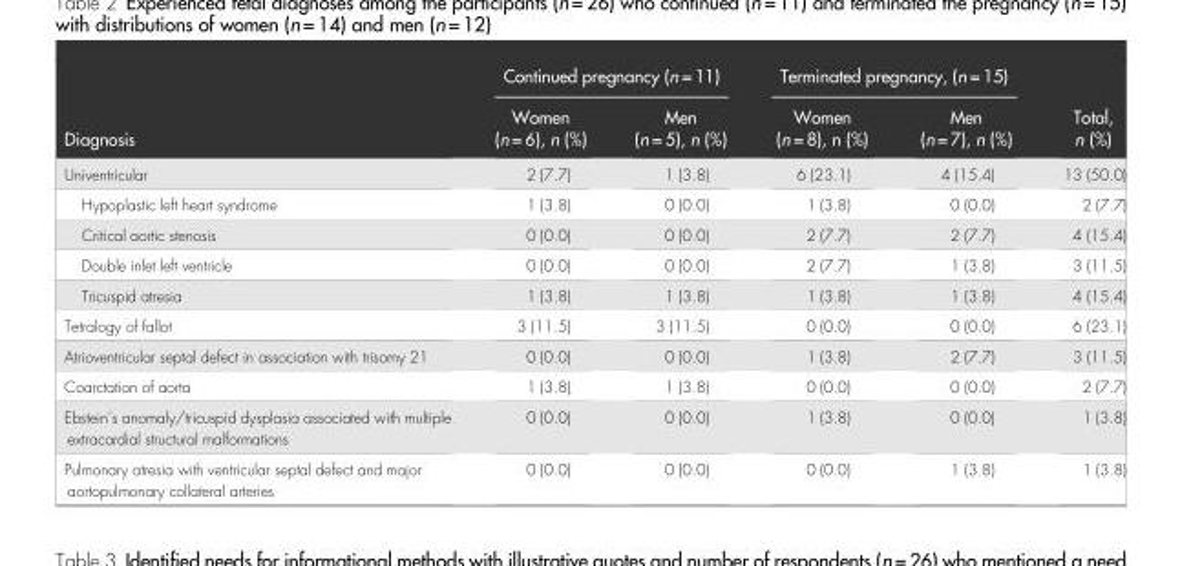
<table><thead><tr><td rowspan="2">Diagnosis</td><td colspan="2">Continued pregnancy (n = 11)</td><td colspan="2">Terminated pregnancy, (n = 15)</td><td rowspan="2">Total, n (%)</td></tr><tr><td>Women (n = 6), n (%)</td><td>Men (n = 5), n (%)</td><td>Women (n = 8), n (%)</td><td>Men (n = 7), n (%)</td></tr></thead><tbody><tr><td>Univentricular</td><td>2 (7.7)</td><td>1 (3.8)</td><td>6 (23.1)</td><td>4 (15.4)</td><td>13 (50.0)</td></tr><tr><td>Hypoplastic left heart syndrome</td><td>1 (3.8)</td><td>0 (0.0)</td><td>1 (3.8)</td><td>0 (0.0)</td><td>2 (7.7)</td></tr><tr><td>Critical aortic stenosis</td><td>0 (0.0)</td><td>0 (0.0)</td><td>2 (7.7)</td><td>2 (7.7)</td><td>4 (15.4)</td></tr><tr><td>Double inlet left ventricle</td><td>0 (0.0)</td><td>0 (0.0)</td><td>2 (7.7)</td><td>1 (3.8)</td><td>3 (11.5)</td></tr><tr><td>Tricuspid atresia</td><td>1 (3.8)</td><td>1 (3.8)</td><td>1 (3.8)</td><td>1 (3.8)</td><td>4 (15.4)</td></tr><tr><td>Tetralogy of fallot</td><td>3 (11.5)</td><td>3 (11.5)</td><td>0 (0.0)</td><td>0 (0.0)</td><td>6 (23.1)</td></tr><tr><td>Atrioventricular septal defect in association with trisomy 21</td><td>0 (0.0)</td><td>0 (0.0)</td><td>1 (3.8)</td><td>2 (7.7)</td><td>3 (11.5)</td></tr><tr><td>Coarctation of aorta</td><td>1 (3.8)</td><td>1 (3.8)</td><td>0 (0.0)</td><td>0 (0.0)</td><td>2 (7.7)</td></tr><tr><td>Ebstein’s anomaly/tricuspid dysplasia associated with multiple extracardial structural malformations</td><td>0 (0.0)</td><td>0 (0.0)</td><td>1 (3.8)</td><td>0 (0.0)</td><td>1 (3.8)</td></tr><tr><td>Pulmonary atresia with ventricular septal defect and major aortopulmonary collateral arteries</td><td>0 (0.0)</td><td>0 (0.0)</td><td>0 (0.0)</td><td>1 (3.8)</td><td>1 (3.8)</td></tr></tbody></table>